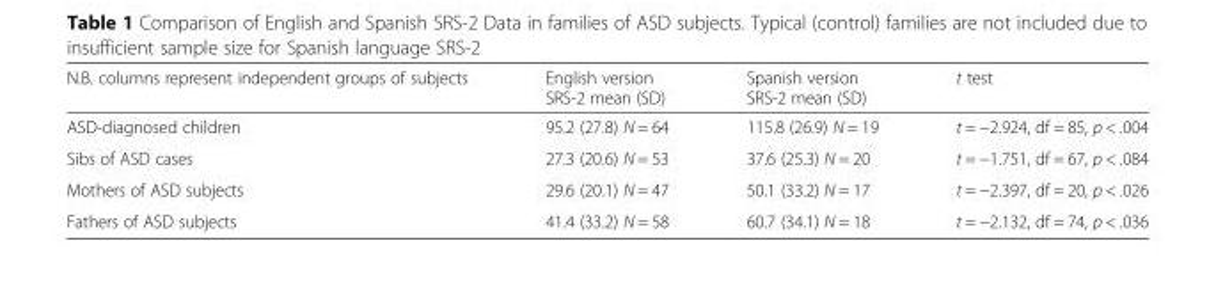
<table><thead><tr><td>N.B. columns represent independent groups of subjects</td><td>English version SRS-2 mean (SD)</td><td>Spanish version SRS-2 mean (SD)</td><td>t test</td></tr></thead><tbody><tr><td>ASD-diagnosed children</td><td>95.2 (27.8) N = 64</td><td>115.8 (26.9) N = 19</td><td>t = −2.924, df = 85, p &lt; .004</td></tr><tr><td>Sibs of ASD cases</td><td>27.3 (20.6) N = 53</td><td>37.6 (25.3) N = 20</td><td>t = −1.751, df = 67, p &lt; .084</td></tr><tr><td>Mothers of ASD subjects</td><td>29.6 (20.1) N = 47</td><td>50.1 (33.2) N = 17</td><td>t = −2.397, df = 20, p &lt; .026</td></tr><tr><td>Fathers of ASD subjects</td><td>41.4 (33.2) N = 58</td><td>60.7 (34.1) N = 18</td><td>t = −2.132, df = 74, p &lt; .036</td></tr></tbody></table>